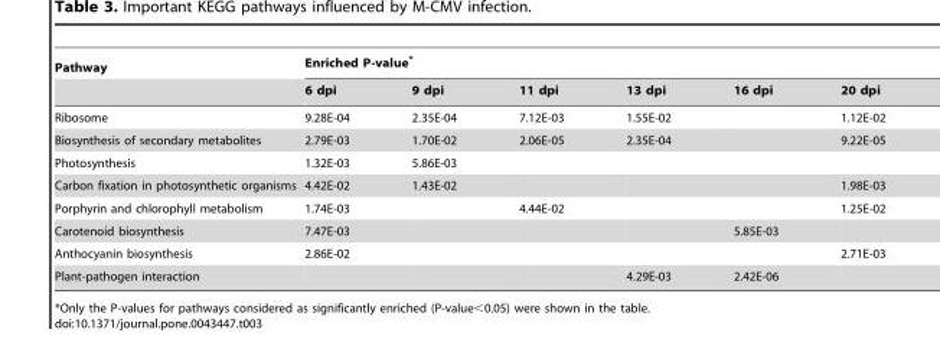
<table><thead><tr><td rowspan="2">Pathway</td><td colspan="6">Enriched P-value*</td></tr><tr><td>6 dpi</td><td>9 dpi</td><td>11 dpi</td><td>13 dpi</td><td>16 dpi</td><td>20 dpi</td></tr></thead><tbody><tr><td>Ribosome</td><td>9.28E-04</td><td>2.35E-04</td><td>7.12E-03</td><td>1.55E-02</td><td></td><td>1.12E-02</td></tr><tr><td>Biosynthesis of secondary metabolites</td><td>2.79E-03</td><td>1.70E-02</td><td>2.06E-05</td><td>2.35E-04</td><td></td><td>9.22E-05</td></tr><tr><td>Photosynthesis</td><td>1.32E-03</td><td>5.86E-03</td><td></td><td></td><td></td><td></td></tr><tr><td>Carbon fixation in photosynthetic organisms</td><td>4.42E-02</td><td>1.43E-02</td><td></td><td></td><td></td><td>1.98E-03</td></tr><tr><td>Porphyrin and chlorophyll metabolism</td><td>1.74E-03</td><td></td><td>4.44E-02</td><td></td><td></td><td>1.25E-02</td></tr><tr><td>Carotenoid biosynthesis</td><td>7.47E-03</td><td></td><td></td><td></td><td>5.85E-03</td><td></td></tr><tr><td>Anthocyanin biosynthesis</td><td>2.86E-02</td><td></td><td></td><td></td><td></td><td>2.71E-03</td></tr><tr><td>Plant-pathogen interaction</td><td></td><td></td><td></td><td>4.29E-03</td><td>2.42E-06</td><td></td></tr></tbody></table>